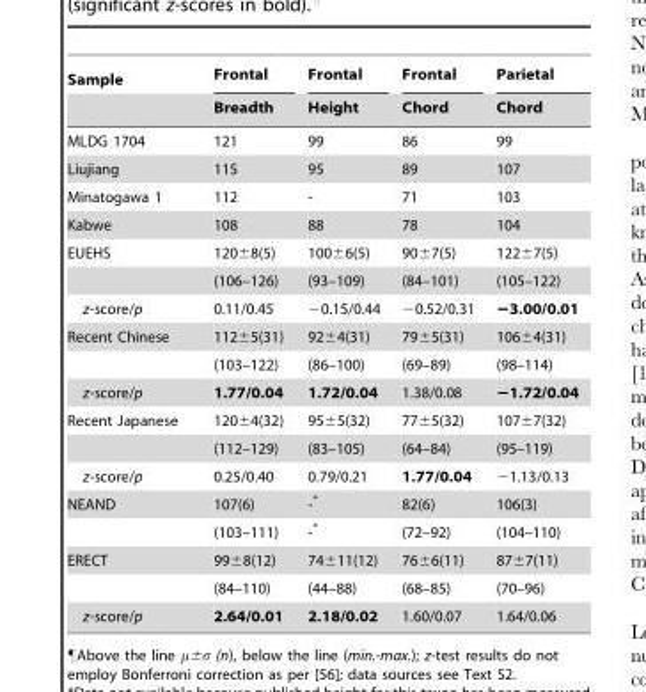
<table><thead><tr><td rowspan="2">Sample</td><td rowspan="2">Frontal Breadth</td><td rowspan="2">Frontal Height</td><td rowspan="2">Frontal Chord</td><td rowspan="2">Parietal Chord</td></tr><tr></tr></thead><tbody><tr><td>MLDG 1704</td><td>121</td><td>99</td><td>86</td><td>99</td></tr><tr><td>Liujiang</td><td>115</td><td>95</td><td>89</td><td>107</td></tr><tr><td>Minatogawa 1</td><td>112</td><td>-</td><td>71</td><td>103</td></tr><tr><td>Kabwe</td><td>108</td><td>88</td><td>78</td><td>104</td></tr><tr><td rowspan="2">EUEHS</td><td>120±8(5)</td><td>100±6(5)</td><td>90±7(5)</td><td>122±7(5)</td></tr><tr><td>(106–126)</td><td>(93–109)</td><td>(84–101)</td><td>(105–122)</td></tr><tr><td>z-score/p</td><td>0.11/0.45</td><td>−0.15/0.44</td><td>−0.52/0.31</td><td>−3.00/0.01</td></tr><tr><td rowspan="2">Recent Chinese</td><td>112±5(31)</td><td>92±4(31)</td><td>79±5(31)</td><td>106±4(31)</td></tr><tr><td>(103–122)</td><td>(86–100)</td><td>(69–89)</td><td>(98–114)</td></tr><tr><td>z-score/p</td><td>1.77/0.04</td><td>1.72/0.04</td><td>1.38/0.08</td><td>−1.72/0.04</td></tr><tr><td rowspan="2">Recent Japanese</td><td>120±4(32)</td><td>95±5(32)</td><td>77±5(32)</td><td>107±7(32)</td></tr><tr><td>(112–129)</td><td>(83–105)</td><td>(64–84)</td><td>(95–119)</td></tr><tr><td>z-score/p</td><td>0.25/0.40</td><td>0.79/0.21</td><td>1.77/0.04</td><td>−1.13/0.13</td></tr><tr><td rowspan="2">NEAND</td><td>107(6)</td><td>-*</td><td>82(6)</td><td>106(3)</td></tr><tr><td>(103–111)</td><td>-*</td><td>(72–92)</td><td>(104–110)</td></tr><tr><td rowspan="2">ERECT</td><td>99±8(12)</td><td>74±11(12)</td><td>76±6(11)</td><td>87±7(11)</td></tr><tr><td>(84–110)</td><td>(44–88)</td><td>(68–85)</td><td>(70–96)</td></tr><tr><td>z-score/p</td><td>2.64/0.01</td><td>2.18/0.02</td><td>1.60/0.07</td><td>1.64/0.06</td></tr></tbody></table>